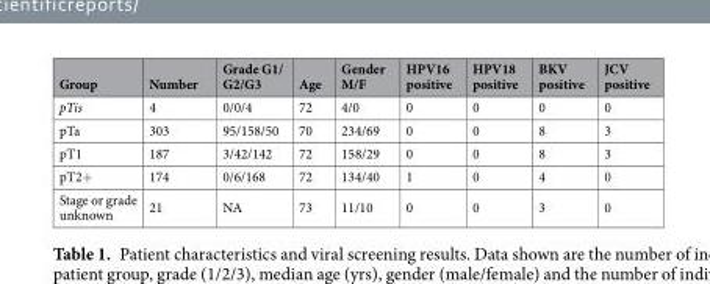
<table><thead><tr><td>Group</td><td>Number</td><td>Grade G1/ G2/G3</td><td>Age</td><td>Gender M/F</td><td>HPV16 positive</td><td>HPV18 positive</td><td>BKV positive</td><td>JCV positive</td></tr></thead><tbody><tr><td>pTis</td><td>4</td><td>0/0/4</td><td>72</td><td>4/0</td><td>0</td><td>0</td><td>0</td><td>0</td></tr><tr><td>pTa</td><td>303</td><td>95/158/50</td><td>70</td><td>234/69</td><td>0</td><td>0</td><td>8</td><td>3</td></tr><tr><td>pT1</td><td>187</td><td>3/42/142</td><td>72</td><td>158/29</td><td>0</td><td>0</td><td>8</td><td>3</td></tr><tr><td>pT2+</td><td>174</td><td>0/6/168</td><td>72</td><td>134/40</td><td>1</td><td>0</td><td>4</td><td>0</td></tr><tr><td>Stage or grade unknown</td><td>21</td><td>NA</td><td>73</td><td>11/10</td><td>0</td><td>0</td><td>3</td><td>0</td></tr></tbody></table>